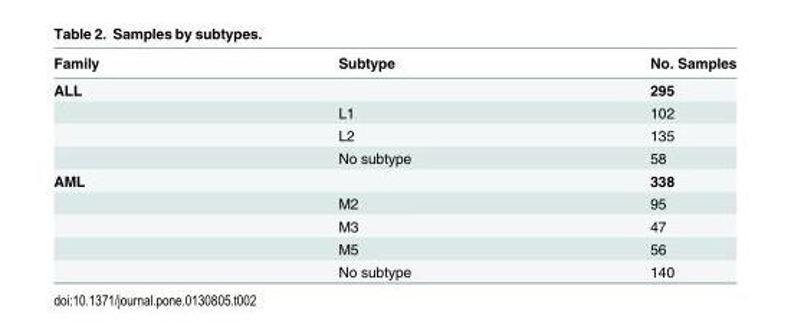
<table><thead><tr><td>Family</td><td>Subtype</td><td>No. Samples</td></tr></thead><tbody><tr><td rowspan="4">ALL</td><td></td><td>295</td></tr><tr><td>L1</td><td>102</td></tr><tr><td>L2</td><td>135</td></tr><tr><td>No subtype</td><td>58</td></tr><tr><td rowspan="5">AML</td><td></td><td>338</td></tr><tr><td>M2</td><td>95</td></tr><tr><td>M3</td><td>47</td></tr><tr><td>M5</td><td>56</td></tr><tr><td>No subtype</td><td>140</td></tr></tbody></table>